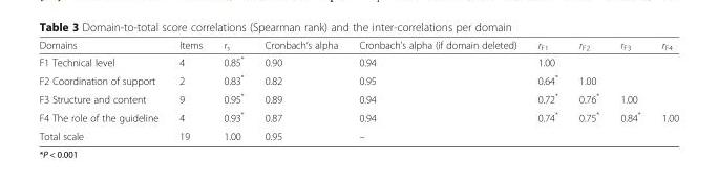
<table><thead><tr><td>Domains</td><td>Items</td><td>r<sub>s</sub></td><td>Cronbach’s alpha</td><td>Cronbach’s alpha (if domain deleted)</td><td>r<sub>F1</sub></td><td>r<sub>F2</sub></td><td>r<sub>F3</sub></td><td>r<sub>F4</sub></td></tr></thead><tbody><tr><td>F1 Technical level</td><td>4</td><td>0.85*</td><td>0.90</td><td>0.94</td><td>1.00</td><td></td><td></td><td></td></tr><tr><td>F2 Coordination of support</td><td>2</td><td>0.83*</td><td>0.82</td><td>0.95</td><td>0.64*</td><td>1.00</td><td></td><td></td></tr><tr><td>F3 Structure and content</td><td>9</td><td>0.95*</td><td>0.89</td><td>0.94</td><td>0.72*</td><td>0.76*</td><td>1.00</td><td></td></tr><tr><td>F4 The role of the guideline</td><td>4</td><td>0.93*</td><td>0.87</td><td>0.94</td><td>0.74*</td><td>0.75*</td><td>0.84*</td><td>1.00</td></tr><tr><td>Total scale</td><td>19</td><td>1.00</td><td>0.95</td><td>–</td><td></td><td></td><td></td><td></td></tr></tbody></table>